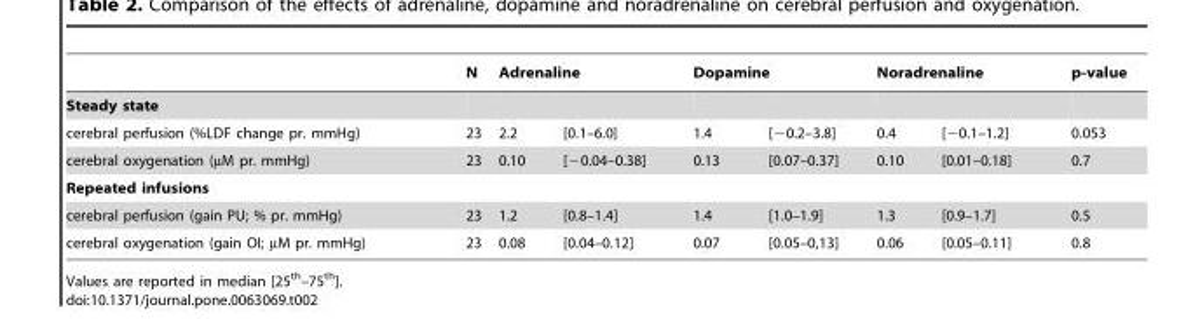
<table><thead><tr><td rowspan="2">Steady state</td><td rowspan="2">N</td><td colspan="2">Adrenaline</td><td colspan="2">Dopamine</td><td colspan="2">Noradrenaline</td><td rowspan="2">p-value</td></tr><tr><td></td><td></td><td></td><td></td><td></td><td></td></tr></thead><tbody><tr><td>cerebral perfusion (%LDF change pr. mmHg)</td><td>23</td><td>2.2</td><td>[0.1–6.0]</td><td>1.4</td><td>[−0.2–3.8]</td><td>0.4</td><td>[−0.1–1.2]</td><td>0.053</td></tr><tr><td>cerebral oxygenation (µM pr. mmHg)</td><td>23</td><td>0.10</td><td>[−0.04–0.38]</td><td>0.13</td><td>[0.07–0.37]</td><td>0.10</td><td>[0.01–0.18]</td><td>0.7</td></tr><tr><td colspan="9">Repeated infusions</td></tr><tr><td>cerebral perfusion (gain PU; % pr. mmHg)</td><td>23</td><td>1.2</td><td>[0.8–1.4]</td><td>1.4</td><td>[1.0–1.9]</td><td>1.3</td><td>[0.9–1.7]</td><td>0.5</td></tr><tr><td>cerebral oxygenation (gain OI; µM pr. mmHg)</td><td>23</td><td>0.08</td><td>[0.04–0.12]</td><td>0.07</td><td>[0.05–0,13]</td><td>0.06</td><td>[0.05–0.11]</td><td>0.8</td></tr></tbody></table>